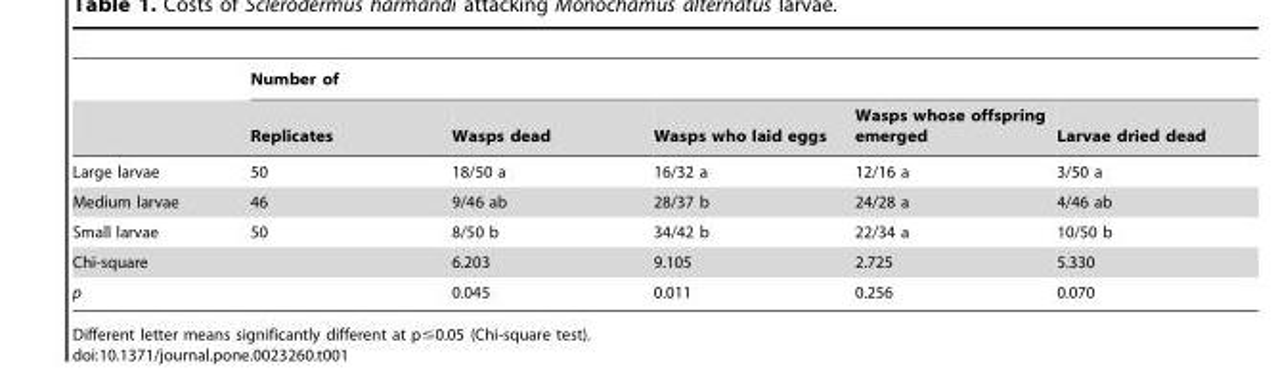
<table><thead><tr><td rowspan="2"></td><td colspan="5">Number of</td></tr><tr><td>Replicates</td><td>Wasps dead</td><td>Wasps who laid eggs</td><td>Wasps whose offspring emerged</td><td>Larvae dried dead</td></tr></thead><tbody><tr><td>Large larvae</td><td>50</td><td>18/50 a</td><td>16/32 a</td><td>12/16 a</td><td>3/50 a</td></tr><tr><td>Medium larvae</td><td>46</td><td>9/46 ab</td><td>28/37 b</td><td>24/28 a</td><td>4/46 ab</td></tr><tr><td>Small larvae</td><td>50</td><td>8/50 b</td><td>34/42 b</td><td>22/34 a</td><td>10/50 b</td></tr><tr><td>Chi-square</td><td></td><td>6.203</td><td>9.105</td><td>2.725</td><td>5.330</td></tr><tr><td>p</td><td></td><td>0.045</td><td>0.011</td><td>0.256</td><td>0.070</td></tr></tbody></table>